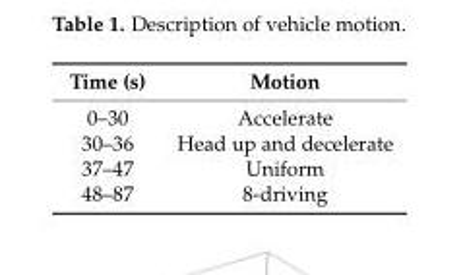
<table><thead><tr><td>Time (s)</td><td>Motion</td></tr></thead><tbody><tr><td>0–30</td><td>Accelerate</td></tr><tr><td>30–36</td><td>Head up and decelerate</td></tr><tr><td>37–47</td><td>Uniform</td></tr><tr><td>48–87</td><td>8-driving</td></tr></tbody></table>